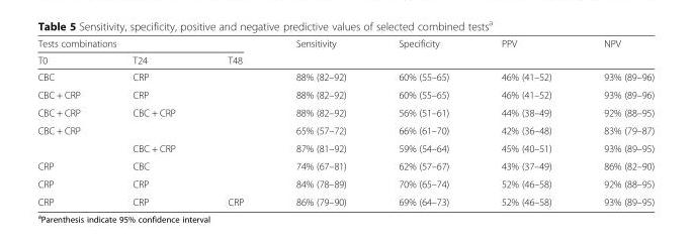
<table><thead><tr><td colspan="3">Tests combinations</td><td rowspan="2">Sensitivity</td><td rowspan="2">Specificity</td><td rowspan="2">PPV</td><td rowspan="2">NPV</td></tr><tr><td>T0</td><td>T24</td><td>T48</td></tr></thead><tbody><tr><td>CBC</td><td>CRP</td><td></td><td>88% (82–92)</td><td>60% (55–65)</td><td>46% (41–52)</td><td>93% (89–96)</td></tr><tr><td>CBC + CRP</td><td>CRP</td><td></td><td>88% (82–92)</td><td>60% (55–65)</td><td>46% (41–52)</td><td>93% (89–96)</td></tr><tr><td>CBC + CRP</td><td>CBC + CRP</td><td></td><td>88% (82–92)</td><td>56% (51–61)</td><td>44% (38–49)</td><td>92% (88–95)</td></tr><tr><td rowspan="2">CBC + CRP</td><td></td><td></td><td>65% (57–72)</td><td>66% (61–70)</td><td>42% (36–48)</td><td>83% (79–87)</td></tr><tr><td>CBC + CRP</td><td></td><td>87% (81–92)</td><td>59% (54–64)</td><td>45% (40–51)</td><td>93% (89–95)</td></tr><tr><td>CRP</td><td>CBC</td><td></td><td>74% (67–81)</td><td>62% (57–67)</td><td>43% (37–49)</td><td>86% (82–90)</td></tr><tr><td>CRP</td><td>CRP</td><td></td><td>84% (78–89)</td><td>70% (65–74)</td><td>52% (46–58)</td><td>92% (88–95)</td></tr><tr><td>CRP</td><td>CRP</td><td>CRP</td><td>86% (79–90)</td><td>69% (64–73)</td><td>52% (46–58)</td><td>93% (89–95)</td></tr></tbody></table>